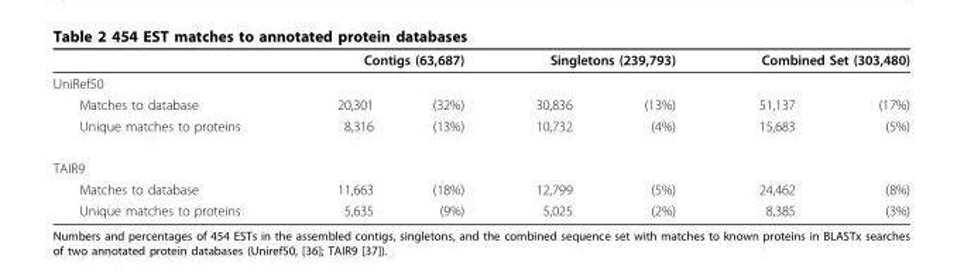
<table><thead><tr><td rowspan="2">UniRef50</td><td colspan="2">Contigs (63,687)</td><td colspan="2">Singletons (239,793)</td><td colspan="2">Combined Set (303,480)</td></tr><tr><td></td><td></td><td></td><td></td><td></td><td></td></tr></thead><tbody><tr><td>Matches to database</td><td>20,301</td><td>(32%)</td><td>30,836</td><td>(13%)</td><td>51,137</td><td>(17%)</td></tr><tr><td>Unique matches to proteins</td><td>8,316</td><td>(13%)</td><td>10,732</td><td>(4%)</td><td>15,683</td><td>(5%)</td></tr><tr><td colspan="7">TAIR9</td></tr><tr><td>Matches to database</td><td>11,663</td><td>(18%)</td><td>12,799</td><td>(5%)</td><td>24,462</td><td>(8%)</td></tr><tr><td>Unique matches to proteins</td><td>5,635</td><td>(9%)</td><td>5,025</td><td>(2%)</td><td>8,385</td><td>(3%)</td></tr></tbody></table>